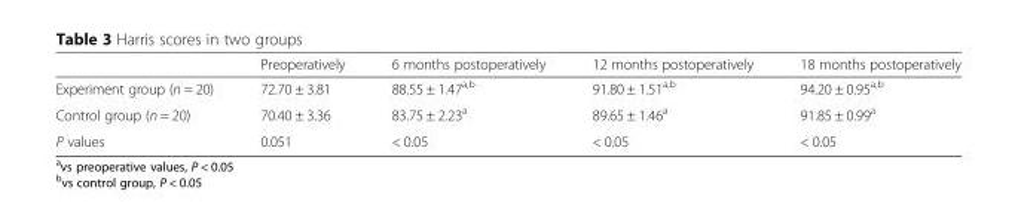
<table><thead><tr><td></td><td>Preoperatively</td><td>6 months postoperatively</td><td>12 months postoperatively</td><td>18 months postoperatively</td></tr></thead><tbody><tr><td>Experiment group (n = 20)</td><td>72.70 ± 3.81</td><td>88.55 ± 1.47<sup>a,b</sup></td><td>91.80 ± 1.51<sup>a,b</sup></td><td>94.20 ± 0.95<sup>a,b</sup></td></tr><tr><td>Control group (n = 20)</td><td>70.40 ± 3.36</td><td>83.75 ± 2.23<sup>a</sup></td><td>89.65 ± 1.46<sup>a</sup></td><td>91.85 ± 0.99<sup>a</sup></td></tr><tr><td>P values</td><td>0.051</td><td>&lt; 0.05</td><td>&lt; 0.05</td><td>&lt; 0.05</td></tr></tbody></table>